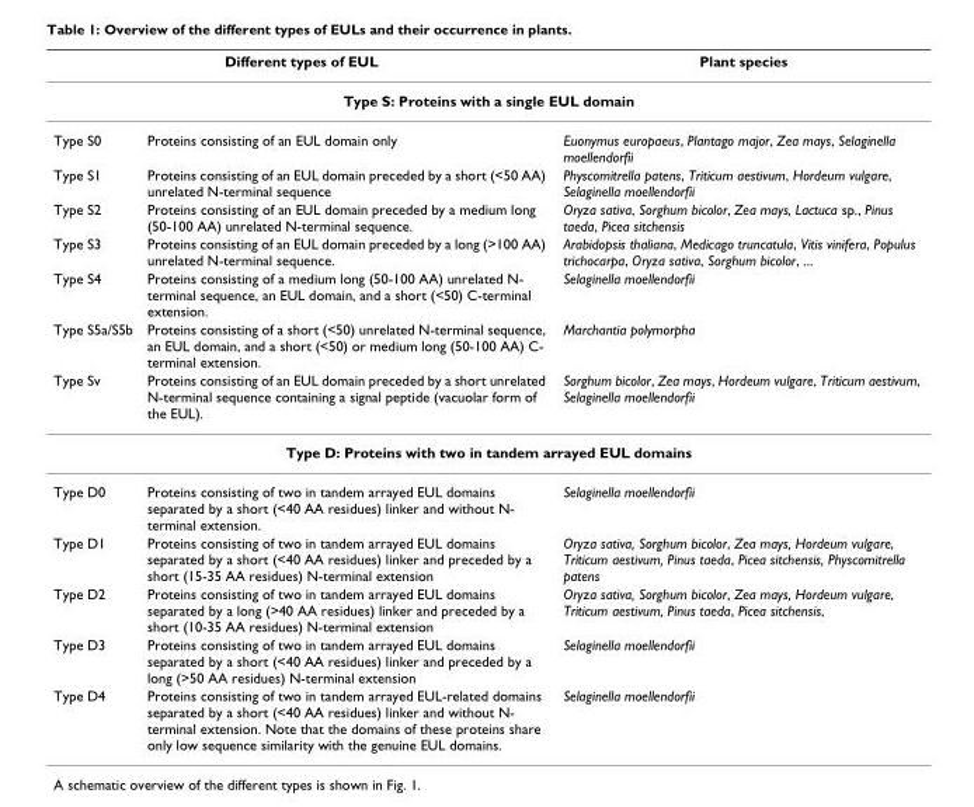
<table><thead><tr><td colspan="2">Different types of EUL</td><td>Plant species</td></tr><tr><td colspan="3">Type S: Proteins with a single EUL domain</td></tr><tr><td>Type S0</td><td>Proteins consisting of an EUL domain only</td><td>Euonymus europaeus, Plantago major, Zea mays, Selaginella moellendorfii</td></tr></thead><tbody><tr><td>Type S1</td><td>Proteins consisting of an EUL domain preceded by a short (&lt;50 AA) unrelated N-terminal sequence</td><td>Physcomitrella patens, Triticum aestivum, Hordeum vulgare, Selaginella moellendorfii</td></tr><tr><td>Type S2</td><td>Proteins consisting of an EUL domain preceded by a medium long (50-100 AA) unrelated N-terminal sequence.</td><td>Oryza sativa, Sorghum bicolor, Zea mays, Lactuca sp., Pinus taeda, Picea sitchensis</td></tr><tr><td>Type S3</td><td>Proteins consisting of an EUL domain preceded by a long (&gt;100 AA) unrelated N-terminal sequence.</td><td>Arabidopsis thaliana, Medicago truncatula, Vitis vinifera, Populus trichocarpa, Oryza sativa, Sorghum bicolor, ...</td></tr><tr><td>Type S4</td><td>Proteins consisting of a medium long (50-100 AA) unrelated N- terminal sequence, an EUL domain, and a short (&lt;50) C-terminal extension.</td><td>Selaginella moellendorfii</td></tr><tr><td>Type S5a/S5b</td><td>Proteins consisting of a short (&lt;50) unrelated N-terminal sequence, an EUL domain, and a short (&lt;50) or medium long (50-100 AA) C- terminal extension.</td><td>Marchantia polymorpha</td></tr><tr><td>Type Sv</td><td>Proteins consisting of an EUL domain preceded by a short unrelated N-terminal sequence containing a signal peptide (vacuolar form of the EUL).</td><td>Sorghum bicolor, Zea mays, Hordeum vulgare, Triticum aestivum, Selaginella moellendorfii</td></tr><tr><td colspan="3">Type D: Proteins with two in tandem arrayed EUL domains</td></tr><tr><td>Type D0</td><td>Proteins consisting of two in tandem arrayed EUL domains separated by a short (&lt;40 AA residues) linker and without N- terminal extension.</td><td>Selaginella moellendorfii</td></tr><tr><td>Type D1</td><td>Proteins consisting of two in tandem arrayed EUL domains separated by a short (&lt;40 AA residues) linker and preceded by a short (15-35 AA residues) N-terminal extension</td><td>Oryza sativa, Sorghum bicolor, Zea mays, Hordeum vulgare, Triticum aestivum, Pinus taeda, Picea sitchensis, Physcomitrella patens</td></tr><tr><td>Type D2</td><td>Proteins consisting of two in tandem arrayed EUL domains separated by a long (&gt;40 AA residues) linker and preceded by a short (10-35 AA residues) N-terminal extension</td><td>Oryza sativa, Sorghum bicolor, Zea mays, Hordeum vulgare, Triticum aestivum, Pinus taeda, Picea sitchensis,</td></tr><tr><td>Type D3</td><td>Proteins consisting of two in tandem arrayed EUL domains separated by a short (&lt;40 AA residues) linker and preceded by a long (&gt;50 AA residues) N-terminal extension</td><td>Selaginella moellendorfii</td></tr><tr><td>Type D4</td><td>Proteins consisting of two in tandem arrayed EUL-related domains separated by a short (&lt;40 AA residues) linker and without N- terminal extension. Note that the domains of these proteins share only low sequence similarity with the genuine EUL domains.</td><td>Selaginella moellendorfii</td></tr></tbody></table>